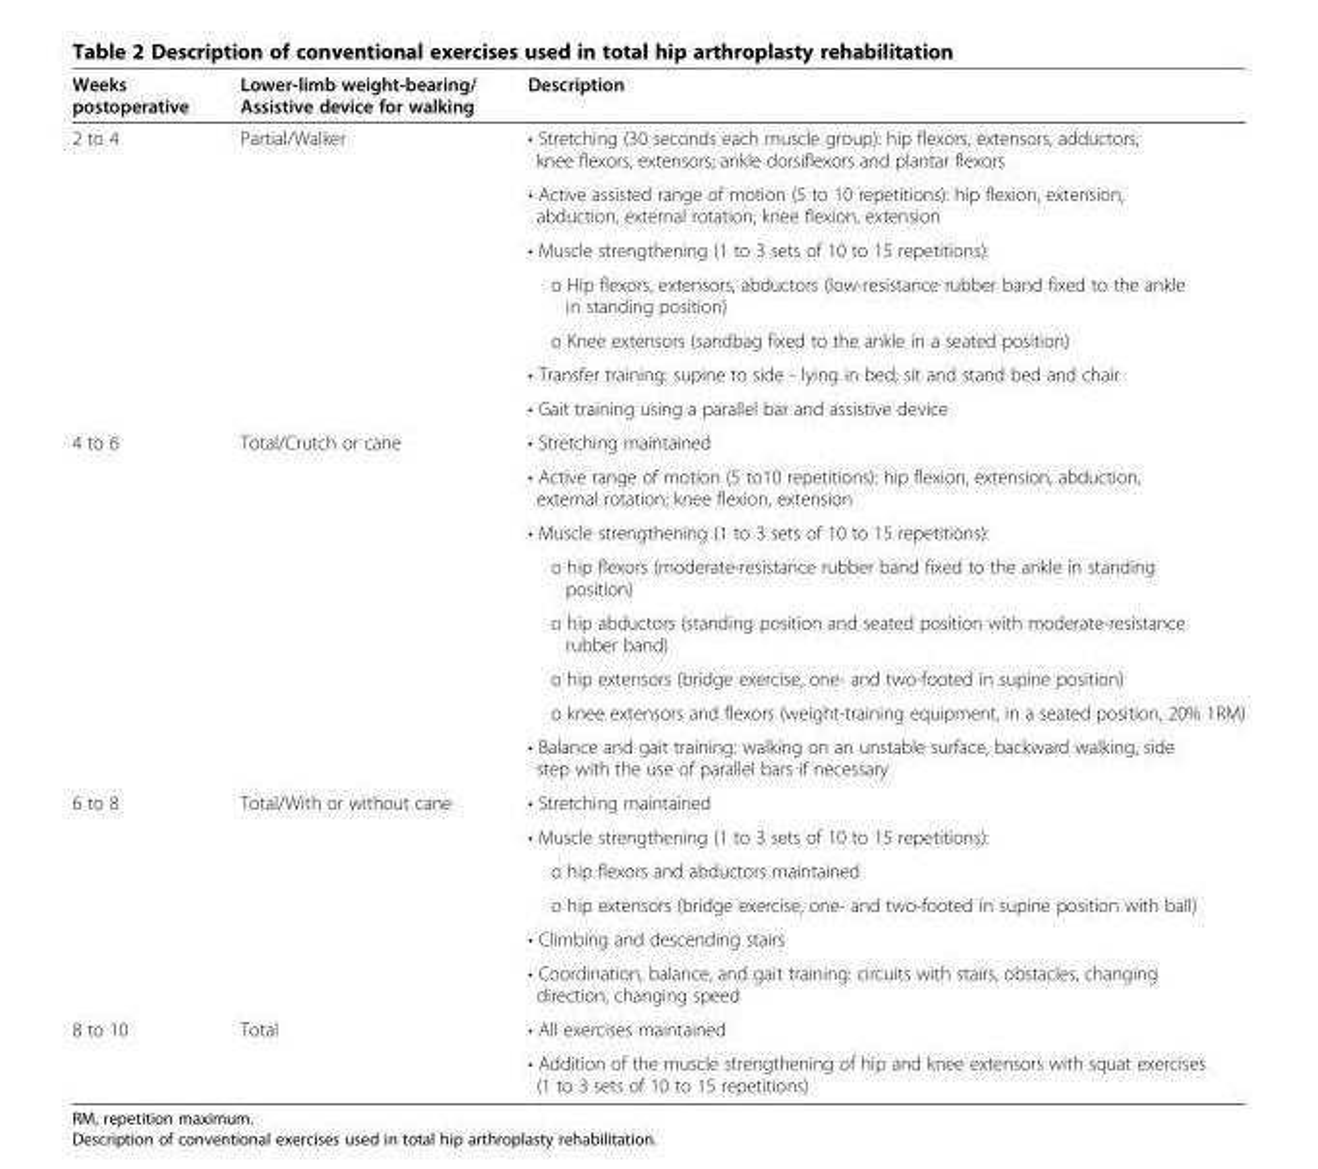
<table><thead><tr><td>Weeks postoperative</td><td>Lower-limb weight-bearing/ Assistive device for walking</td><td>Description</td></tr></thead><tbody><tr><td rowspan="7">2 to 4</td><td rowspan="7">Partial/Walker</td><td>• Stretching (30 seconds each muscle group): hip flexors, extensors, adductors; knee flexors, extensors; ankle dorsiflexors and plantar flexors</td></tr><tr><td>• Active assisted range of motion (5 to 10 repetitions): hip flexion, extension, abduction, external rotation; knee flexion, extension</td></tr><tr><td>• Muscle strengthening (1 to 3 sets of 10 to 15 repetitions):</td></tr><tr><td>o Hip flexors, extensors, abductors (low-resistance rubber band fixed to the ankle in standing position)</td></tr><tr><td>o Knee extensors (sandbag fixed to the ankle in a seated position)</td></tr><tr><td>• Transfer training: supine to side - lying in bed; sit and stand bed and chair</td></tr><tr><td>• Gait training using a parallel bar and assistive device</td></tr><tr><td rowspan="8">4 to 6</td><td rowspan="8">Total/Crutch or cane</td><td>• Stretching maintained</td></tr><tr><td>• Active range of motion (5 to10 repetitions): hip flexion, extension, abduction, external rotation; knee flexion, extension</td></tr><tr><td>• Muscle strengthening (1 to 3 sets of 10 to 15 repetitions):</td></tr><tr><td>o hip flexors (moderate-resistance rubber band fixed to the ankle in standing position)</td></tr><tr><td>o hip abductors (standing position and seated position with moderate-resistance rubber band)</td></tr><tr><td>o hip extensors (bridge exercise, one- and two-footed in supine position)</td></tr><tr><td>o knee extensors and flexors (weight-training equipment, in a seated position, 20% 1RM)</td></tr><tr><td>• Balance and gait training: walking on an unstable surface, backward walking, side step with the use of parallel bars if necessary</td></tr><tr><td rowspan="6">6 to 8</td><td rowspan="6">Total/With or without cane</td><td>• Stretching maintained</td></tr><tr><td>• Muscle strengthening (1 to 3 sets of 10 to 15 repetitions):</td></tr><tr><td>o hip flexors and abductors maintained</td></tr><tr><td>o hip extensors (bridge exercise, one- and two-footed in supine position with ball)</td></tr><tr><td>• Climbing and descending stairs</td></tr><tr><td>• Coordination, balance, and gait training: circuits with stairs, obstacles, changing direction, changing speed</td></tr><tr><td rowspan="2">8 to 10</td><td rowspan="2">Total</td><td>• All exercises maintained</td></tr><tr><td>• Addition of the muscle strengthening of hip and knee extensors with squat exercises (1 to 3 sets of 10 to 15 repetitions)</td></tr></tbody></table>